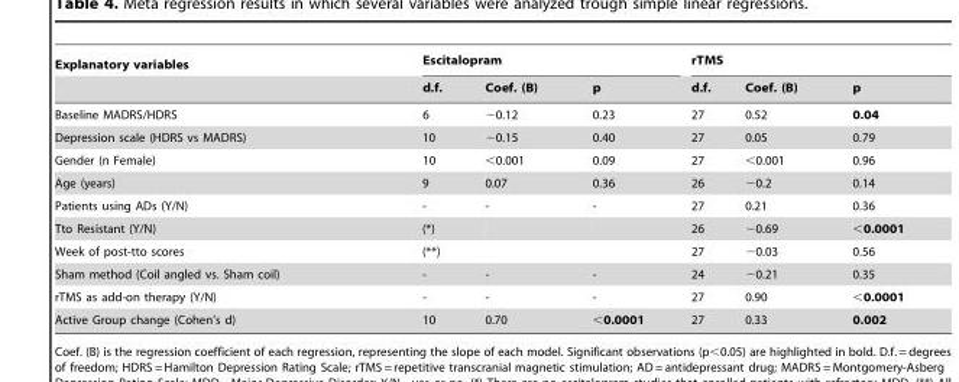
<table><thead><tr><td rowspan="2">Explanatory variables</td><td colspan="3">Escitalopram</td><td colspan="3">rTMS</td></tr><tr><td>d.f.</td><td>Coef. (B)</td><td>p</td><td>d.f.</td><td>Coef. (B)</td><td>p</td></tr></thead><tbody><tr><td>Baseline MADRS/HDRS</td><td>6</td><td>−0.12</td><td>0.23</td><td>27</td><td>0.52</td><td>0.04</td></tr><tr><td>Depression scale (HDRS vs MADRS)</td><td>10</td><td>−0.15</td><td>0.40</td><td>27</td><td>0.05</td><td>0.79</td></tr><tr><td>Gender (n Female)</td><td>10</td><td>&lt;0.001</td><td>0.09</td><td>27</td><td>&lt;0.001</td><td>0.96</td></tr><tr><td>Age (years)</td><td>9</td><td>0.07</td><td>0.36</td><td>26</td><td>−0.2</td><td>0.14</td></tr><tr><td>Patients using ADs (Y/N)</td><td>-</td><td>-</td><td>-</td><td>27</td><td>0.21</td><td>0.36</td></tr><tr><td>Tto Resistant (Y/N)</td><td>(*)</td><td></td><td></td><td>26</td><td>−0.69</td><td>&lt;0.0001</td></tr><tr><td>Week of post-tto scores</td><td>(**)</td><td></td><td></td><td>27</td><td>−0.03</td><td>0.56</td></tr><tr><td>Sham method (Coil angled vs. Sham coil)</td><td>-</td><td>-</td><td>-</td><td>24</td><td>−0.21</td><td>0.35</td></tr><tr><td>rTMS as add-on therapy (Y/N)</td><td>-</td><td>-</td><td>-</td><td>27</td><td>0.90</td><td>&lt;0.0001</td></tr><tr><td>Active Group change (Cohen’s d)</td><td>10</td><td>0.70</td><td>&lt;0.0001</td><td>27</td><td>0.33</td><td>0.002</td></tr></tbody></table>